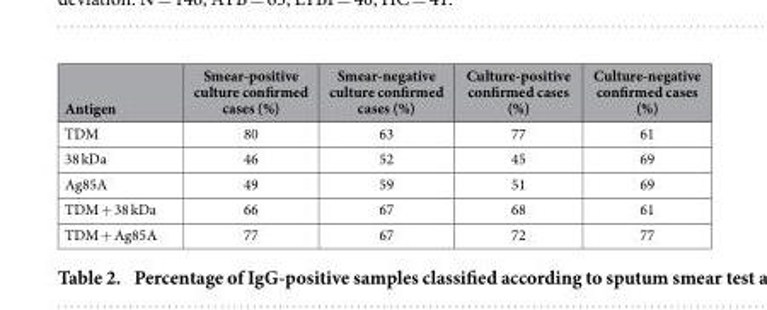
<table><thead><tr><td>Antigen</td><td>Smear-positive culture confirmed cases (%)</td><td>Smear-negative culture confirmed cases (%)</td><td>Culture-positive confirmed cases (%)</td><td>Culture-negative confirmed cases (%)</td></tr></thead><tbody><tr><td>TDM</td><td>80</td><td>63</td><td>77</td><td>61</td></tr><tr><td>38 kDa</td><td>46</td><td>52</td><td>45</td><td>69</td></tr><tr><td>Ag85A</td><td>49</td><td>59</td><td>51</td><td>69</td></tr><tr><td>TDM + 38 kDa</td><td>66</td><td>67</td><td>68</td><td>61</td></tr><tr><td>TDM + Ag85A</td><td>77</td><td>67</td><td>72</td><td>77</td></tr></tbody></table>